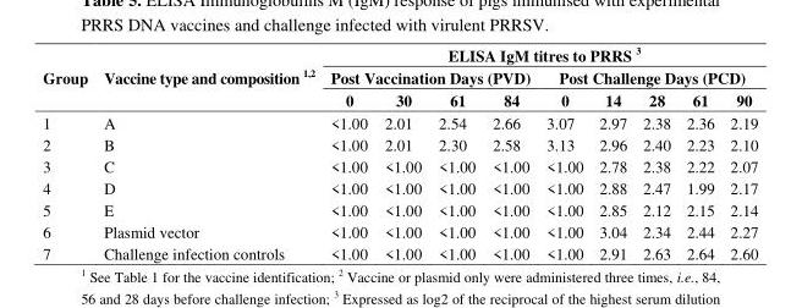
<table><thead><tr><td rowspan="3">Group</td><td rowspan="3">Vaccine type and composition <sup>1,2</sup></td><td colspan="9">ELISA IgM titres to PRRS <sup>3</sup></td></tr><tr><td colspan="4">Post Vaccination Days (PVD)</td><td colspan="5">Post Challenge Days (PCD)</td></tr><tr><td>0</td><td>30</td><td>61</td><td>84</td><td>0</td><td>14</td><td>28</td><td>61</td><td>90</td></tr></thead><tbody><tr><td>1</td><td>A</td><td>&lt;1.00</td><td>2.01</td><td>2.54</td><td>2.66</td><td>3.07</td><td>2.97</td><td>2.38</td><td>2.36</td><td>2.19</td></tr><tr><td>2</td><td>B</td><td>&lt;1.00</td><td>2.01</td><td>2.30</td><td>2.58</td><td>3.13</td><td>2.96</td><td>2.40</td><td>2.23</td><td>2.10</td></tr><tr><td>3</td><td>C</td><td>&lt;1.00</td><td>&lt;1.00</td><td>&lt;1.00</td><td>&lt;1.00</td><td>&lt;1.00</td><td>2.78</td><td>2.38</td><td>2.22</td><td>2.07</td></tr><tr><td>4</td><td>D</td><td>&lt;1.00</td><td>&lt;1.00</td><td>&lt;1.00</td><td>&lt;1.00</td><td>&lt;1.00</td><td>2.88</td><td>2.47</td><td>1.99</td><td>2.17</td></tr><tr><td>5</td><td>E</td><td>&lt;1.00</td><td>&lt;1.00</td><td>&lt;1.00</td><td>&lt;1.00</td><td>&lt;1.00</td><td>2.85</td><td>2.12</td><td>2.15</td><td>2.14</td></tr><tr><td>6</td><td>Plasmid vector</td><td>&lt;1.00</td><td>&lt;1.00</td><td>&lt;1.00</td><td>&lt;1.00</td><td>&lt;1.00</td><td>3.04</td><td>2.34</td><td>2.44</td><td>2.27</td></tr><tr><td>7</td><td>Challenge infection controls</td><td>&lt;1.00</td><td>&lt;1.00</td><td>&lt;1.00</td><td>&lt;1.00</td><td>&lt;1.00</td><td>2.91</td><td>2.63</td><td>2.64</td><td>2.60</td></tr></tbody></table>